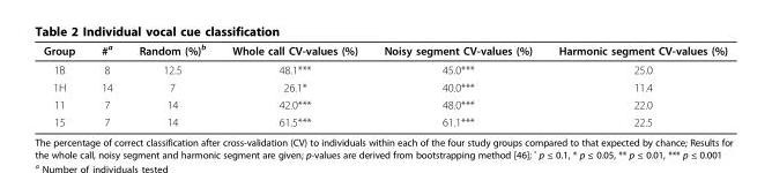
<table><thead><tr><td>Group</td><td>#<sup>a</sup></td><td>Random (%)<sup>b</sup></td><td>Whole call CV-values (%)</td><td>Noisy segment CV-values (%)</td><td>Harmonic segment CV-values (%)</td></tr></thead><tbody><tr><td>1B</td><td>8</td><td>12.5</td><td>48.1***</td><td>45.0***</td><td>25.0</td></tr><tr><td>1H</td><td>14</td><td>7</td><td>26.1*</td><td>40.0***</td><td>11.4</td></tr><tr><td>11</td><td>7</td><td>14</td><td>42.0***</td><td>48.0***</td><td>22.0</td></tr><tr><td>15</td><td>7</td><td>14</td><td>61.5***</td><td>61.1***</td><td>22.5</td></tr></tbody></table>